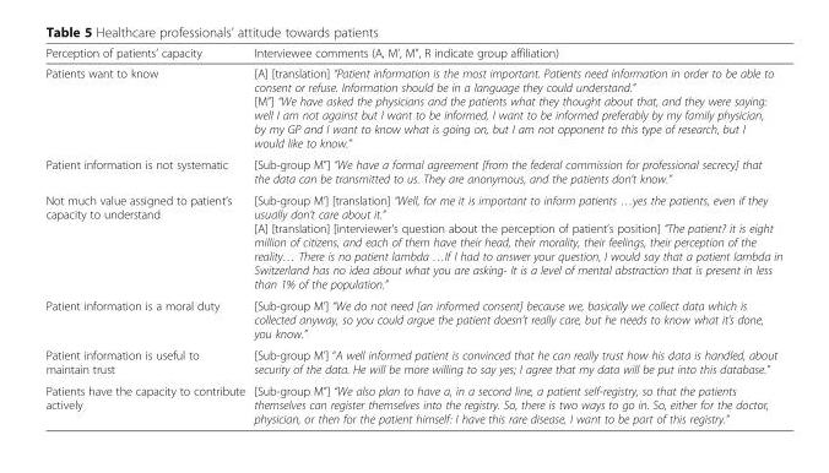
<table><thead><tr><td>Perception of patients’ capacity</td><td>Interviewee comments (A, M’, M”, R indicate group affiliation)</td></tr></thead><tbody><tr><td>Patients want to know</td><td>[A] [translation] “Patient information is the most important. Patients need information in order to be able to consent or refuse. Information should be in a language they could understand.” [M”] “We have asked the physicians and the patients what they thought about that, and they were saying: well I am not against but I want to be informed, I want to be informed preferably by my family physician, by my GP and I want to know what is going on, but I am not opponent to this type of research, but I would like to know.”</td></tr><tr><td>Patient information is not systematic</td><td>[Sub-group M”] “We have a formal agreement [from the federal commission for professional secrecy] that the data can be transmitted to us. They are anonymous, and the patients don’t know.”</td></tr><tr><td>Not much value assigned to patient’s capacity to understand</td><td>[Sub-group M’] [translation] “Well, for me it is important to inform patients …yes the patients, even if they usually don’t care about it.” [A] [translation] [interviewer’s question about the perception of patient’s position] “The patient? it is eight million of citizens, and each of them have their head, their morality, their feelings, their perception of the reality… There is no patient lambda …If I had to answer your question, I would say that a patient lambda in Switzerland has no idea about what you are asking- It is a level of mental abstraction that is present in less than 1% of the population.”</td></tr><tr><td>Patient information is a moral duty</td><td>[Sub-group M’] “We do not need [an informed consent] because we, basically we collect data which is collected anyway, so you could argue the patient doesn’t really care, but he needs to know what it’s done, you know.”</td></tr><tr><td>Patient information is useful to maintain trust</td><td>[Sub-group M’] “A well informed patient is convinced that he can really trust how his data is handled, about security of the data. He will be more willing to say yes; I agree that my data will be put into this database.”</td></tr><tr><td>Patients have the capacity to contribute actively</td><td>[Sub-group M”] “We also plan to have a, in a second line, a patient self-registry, so that the patients themselves can register themselves into the registry. So, there is two ways to go in. So, either for the doctor, physician, or then for the patient himself: I have this rare disease, I want to be part of this registry.”</td></tr></tbody></table>